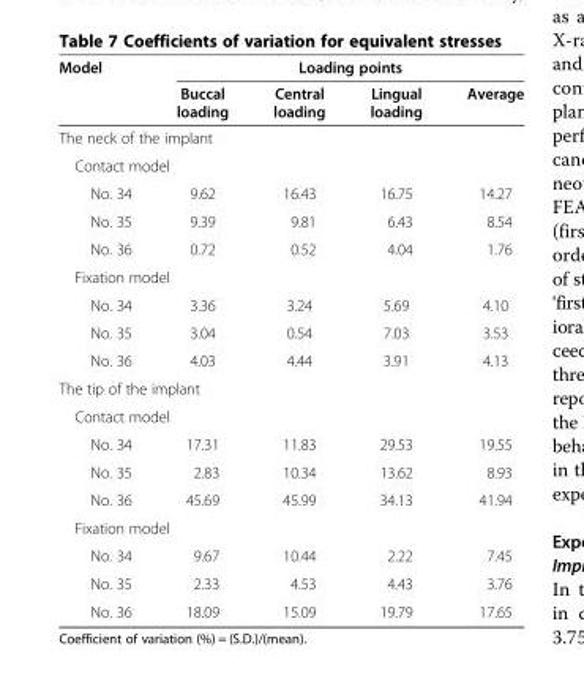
<table><thead><tr><td rowspan="2">Model</td><td colspan="4">Loading points</td></tr><tr><td>Buccal loading</td><td>Central loading</td><td>Lingual loading</td><td>Average</td></tr></thead><tbody><tr><td colspan="5">The neck of the implant</td></tr><tr><td colspan="5">Contact model</td></tr><tr><td>No. 34</td><td>9.62</td><td>16.43</td><td>16.75</td><td>14.27</td></tr><tr><td>No. 35</td><td>9.39</td><td>9.81</td><td>6.43</td><td>8.54</td></tr><tr><td>No. 36</td><td>0.72</td><td>0.52</td><td>4.04</td><td>1.76</td></tr><tr><td colspan="5">Fixation model</td></tr><tr><td>No. 34</td><td>3.36</td><td>3.24</td><td>5.69</td><td>4.10</td></tr><tr><td>No. 35</td><td>3.04</td><td>0.54</td><td>7.03</td><td>3.53</td></tr><tr><td>No. 36</td><td>4.03</td><td>4.44</td><td>3.91</td><td>4.13</td></tr><tr><td colspan="5">The tip of the implant</td></tr><tr><td colspan="5">Contact model</td></tr><tr><td>No. 34</td><td>17.31</td><td>11.83</td><td>29.53</td><td>19.55</td></tr><tr><td>No. 35</td><td>2.83</td><td>10.34</td><td>13.62</td><td>8.93</td></tr><tr><td>No. 36</td><td>45.69</td><td>45.99</td><td>34.13</td><td>41.94</td></tr><tr><td colspan="5">Fixation model</td></tr><tr><td>No. 34</td><td>9.67</td><td>10.44</td><td>2.22</td><td>7.45</td></tr><tr><td>No. 35</td><td>2.33</td><td>4.53</td><td>4.43</td><td>3.76</td></tr><tr><td>No. 36</td><td>18.09</td><td>15.09</td><td>19.79</td><td>17.65</td></tr></tbody></table>